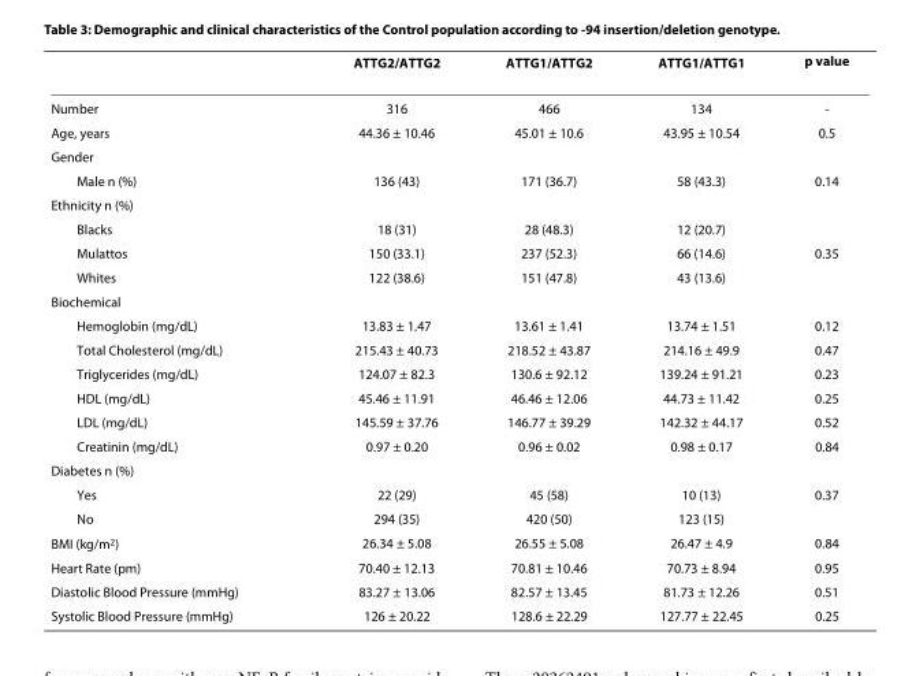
<table><thead><tr><td></td><td>ATTG<sub>2</sub>/ATTG<sub>2</sub></td><td>ATTG<sub>1</sub>/ATTG<sub>2</sub></td><td>ATTG<sub>1</sub>/ATTG<sub>1</sub></td><td>p value</td></tr></thead><tbody><tr><td>Number</td><td>316</td><td>466</td><td>134</td><td>-</td></tr><tr><td>Age, years</td><td>44.36 ± 10.46</td><td>45.01 ± 10.6</td><td>43.95 ± 10.54</td><td>0.5</td></tr><tr><td colspan="5">Gender</td></tr><tr><td>Male n (%)</td><td>136 (43)</td><td>171 (36.7)</td><td>58 (43.3)</td><td>0.14</td></tr><tr><td colspan="5">Ethnicity n (%)</td></tr><tr><td>Blacks</td><td>18 (31)</td><td>28 (48.3)</td><td>12 (20.7)</td><td></td></tr><tr><td>Mulattos</td><td>150 (33.1)</td><td>237 (52.3)</td><td>66 (14.6)</td><td>0.35</td></tr><tr><td>Whites</td><td>122 (38.6)</td><td>151 (47.8)</td><td>43 (13.6)</td><td></td></tr><tr><td colspan="5">Biochemical</td></tr><tr><td>Hemoglobin (mg/dL)</td><td>13.83 ± 1.47</td><td>13.61 ± 1.41</td><td>13.74 ± 1.51</td><td>0.12</td></tr><tr><td>Total Cholesterol (mg/dL)</td><td>215.43 ± 40.73</td><td>218.52 ± 43.87</td><td>214.16 ± 49.9</td><td>0.47</td></tr><tr><td>Triglycerides (mg/dL)</td><td>124.07 ± 82.3</td><td>130.6 ± 92.12</td><td>139.24 ± 91.21</td><td>0.23</td></tr><tr><td>HDL (mg/dL)</td><td>45.46 ± 11.91</td><td>46.46 ± 12.06</td><td>44.73 ± 11.42</td><td>0.25</td></tr><tr><td>LDL (mg/dL)</td><td>145.59 ± 37.76</td><td>146.77 ± 39.29</td><td>142.32 ± 44.17</td><td>0.52</td></tr><tr><td>Creatinin (mg/dL)</td><td>0.97 ± 0.20</td><td>0.96 ± 0.02</td><td>0.98 ± 0.17</td><td>0.84</td></tr><tr><td colspan="5">Diabetes n (%)</td></tr><tr><td>Yes</td><td>22 (29)</td><td>45 (58)</td><td>10 (13)</td><td>0.37</td></tr><tr><td>No</td><td>294 (35)</td><td>420 (50)</td><td>123 (15)</td><td></td></tr><tr><td>BMI (kg/m<sup>2</sup>)</td><td>26.34 ± 5.08</td><td>26.55 ± 5.08</td><td>26.47 ± 4.9</td><td>0.84</td></tr><tr><td>Heart Rate (pm)</td><td>70.40 ± 12.13</td><td>70.81 ± 10.46</td><td>70.73 ± 8.94</td><td>0.95</td></tr><tr><td>Diastolic Blood Pressure (mmHg)</td><td>83.27 ± 13.06</td><td>82.57 ± 13.45</td><td>81.73 ± 12.26</td><td>0.51</td></tr><tr><td>Systolic Blood Pressure (mmHg)</td><td>126 ± 20.22</td><td>128.6 ± 22.29</td><td>127.77 ± 22.45</td><td>0.25</td></tr></tbody></table>